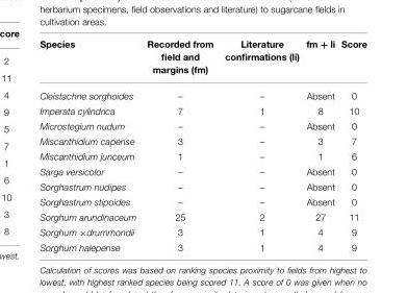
<table><thead><tr><td>Species</td><td>Recorded from field and margins (fm)</td><td>Literature confirmations (li)</td><td>fm + li</td><td>Score</td></tr></thead><tbody><tr><td>Cleistachne sorghoides</td><td>–</td><td>–</td><td>Absent</td><td>0</td></tr><tr><td>Imperata cylindrica</td><td>7</td><td>1</td><td>8</td><td>10</td></tr><tr><td>Microstegium nudum</td><td>–</td><td>–</td><td>Absent</td><td>0</td></tr><tr><td>Miscanthidium capense</td><td>3</td><td>–</td><td>3</td><td>7</td></tr><tr><td>Miscanthidium junceum</td><td>1</td><td>–</td><td>1</td><td>6</td></tr><tr><td>Sarga versicolor</td><td>–</td><td>–</td><td>Absent</td><td>0</td></tr><tr><td>Sorghastrum nudipes</td><td>–</td><td>–</td><td>Absent</td><td>0</td></tr><tr><td>Sorghastrum stipoides</td><td>–</td><td>–</td><td>Absent</td><td>0</td></tr><tr><td>Sorghum arundinaceum</td><td>25</td><td>2</td><td>27</td><td>11</td></tr><tr><td>Sorghum ×drummondii</td><td>3</td><td>1</td><td>4</td><td>9</td></tr><tr><td>Sorghum halepense</td><td>3</td><td>1</td><td>4</td><td>9</td></tr></tbody></table>